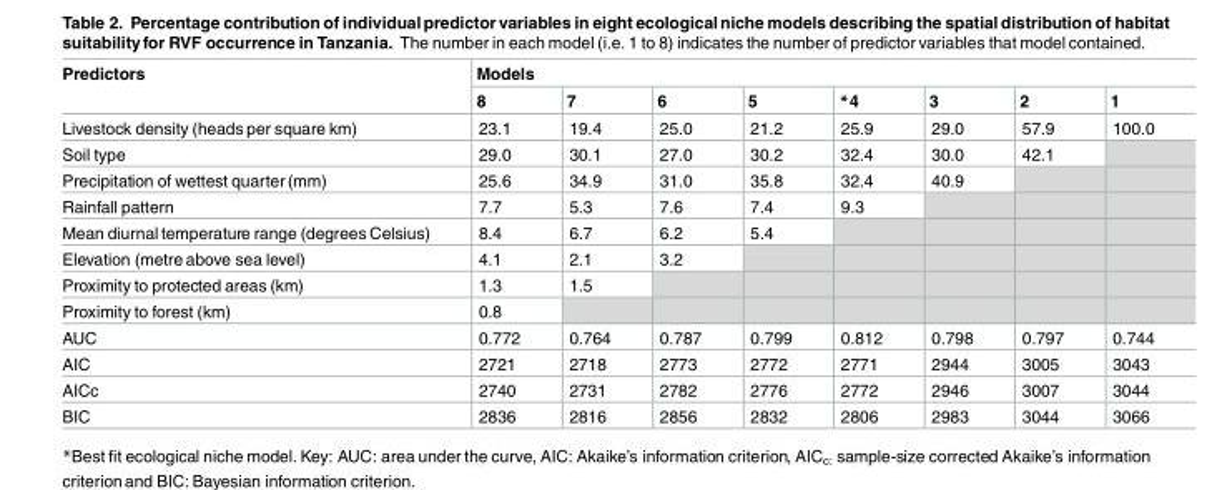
<table><thead><tr><td rowspan="2">Predictors</td><td colspan="8">Models</td></tr><tr><td>8</td><td>7</td><td>6</td><td>5</td><td>*4</td><td>3</td><td>2</td><td>1</td></tr></thead><tbody><tr><td>Livestock density (heads per square km)</td><td>23.1</td><td>19.4</td><td>25.0</td><td>21.2</td><td>25.9</td><td>29.0</td><td>57.9</td><td>100.0</td></tr><tr><td>Soil type</td><td>29.0</td><td>30.1</td><td>27.0</td><td>30.2</td><td>32.4</td><td>30.0</td><td>42.1</td><td></td></tr><tr><td>Precipitation of wettest quarter(mm)</td><td>25.6</td><td>34.9</td><td>31.0</td><td>35.8</td><td>32.4</td><td>40.9</td><td></td><td></td></tr><tr><td>Rainfall pattern</td><td>7.7</td><td>5.3</td><td>7.6</td><td>7.4</td><td>9.3</td><td></td><td></td><td></td></tr><tr><td>Mean diurnal temperature range (degrees Celsius)</td><td>8.4</td><td>6.7</td><td>6.2</td><td>5.4</td><td></td><td></td><td></td><td></td></tr><tr><td>Elevation (metre above sea level)</td><td>4.1</td><td>2.1</td><td>3.2</td><td></td><td></td><td></td><td></td><td></td></tr><tr><td>Proximity to protected areas (km)</td><td>1.3</td><td>1.5</td><td></td><td></td><td></td><td></td><td></td><td></td></tr><tr><td>Proximity to forest (km)</td><td>0.8</td><td></td><td></td><td></td><td></td><td></td><td></td><td></td></tr><tr><td>AUC</td><td>0.772</td><td>0.764</td><td>0.787</td><td>0.799</td><td>0.812</td><td>0.798</td><td>0.797</td><td>0.744</td></tr><tr><td>AIC</td><td>2721</td><td>2718</td><td>2773</td><td>2772</td><td>2771</td><td>2944</td><td>3005</td><td>3043</td></tr><tr><td>AICc</td><td>2740</td><td>2731</td><td>2782</td><td>2776</td><td>2772</td><td>2946</td><td>3007</td><td>3044</td></tr><tr><td>BIC</td><td>2836</td><td>2816</td><td>2856</td><td>2832</td><td>2806</td><td>2983</td><td>3044</td><td>3066</td></tr></tbody></table>